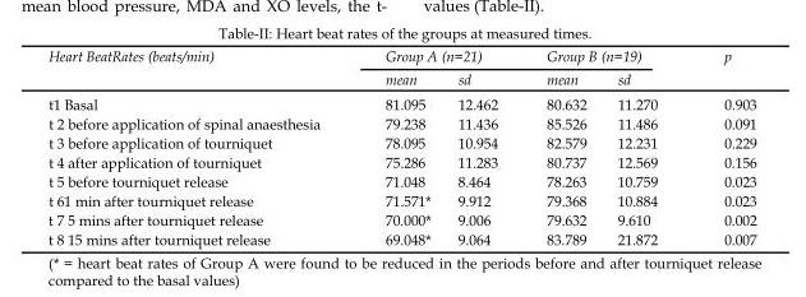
<table><thead><tr><td rowspan="2">Heart BeatRates (beats/min)</td><td colspan="2">Group A (n=21)</td><td colspan="2">Group B (n=19)</td><td rowspan="2">p</td></tr><tr><td>mean</td><td>sd</td><td>mean</td><td>sd</td></tr></thead><tbody><tr><td>t1 Basal</td><td>81.095</td><td>12.462</td><td>80.632</td><td>11.270</td><td>0.903</td></tr><tr><td>t 2 before application of spinal anaesthesia</td><td>79.238</td><td>11.436</td><td>85.526</td><td>11.486</td><td>0.091</td></tr><tr><td>t 3 before application of tourniquet</td><td>78.095</td><td>10.954</td><td>82.579</td><td>12.231</td><td>0.229</td></tr><tr><td>t 4 after application of tourniquet</td><td>75.286</td><td>11.283</td><td>80.737</td><td>12.569</td><td>0.156</td></tr><tr><td>t 5 before tourniquet release</td><td>71.048</td><td>8.464</td><td>78.263</td><td>10.759</td><td>0.023</td></tr><tr><td>t 61 min after tourniquet release</td><td>71.571*</td><td>9.912</td><td>79.368</td><td>10.884</td><td>0.023</td></tr><tr><td>t 7 5 mins after tourniquet release</td><td>70.000*</td><td>9.006</td><td>79.632</td><td>9.610</td><td>0.002</td></tr><tr><td>t 8 15 mins after tourniquet release</td><td>69.048*</td><td>9.064</td><td>83.789</td><td>21.872</td><td>0.007</td></tr></tbody></table>